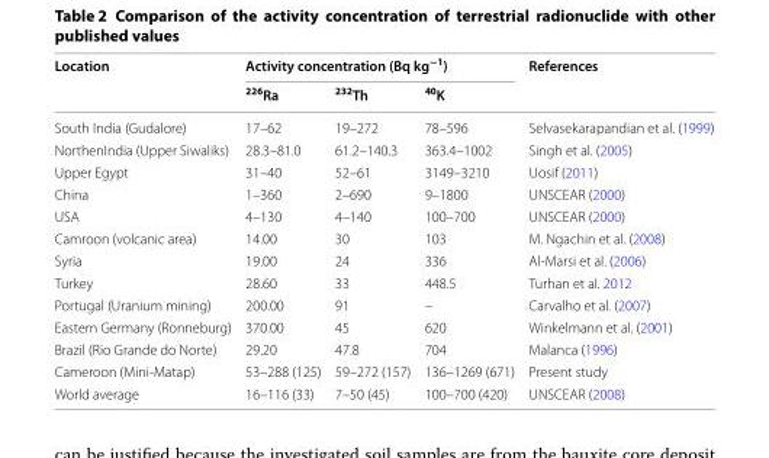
<table><thead><tr><td rowspan="2">Location</td><td colspan="3">Activity concentration (Bq kg<sup>−1</sup>)</td><td rowspan="2">References</td></tr><tr><td><sup>226</sup>Ra</td><td><sup>232</sup>Th</td><td><sup>40</sup>K</td></tr></thead><tbody><tr><td>South India (Gudalore)</td><td>17–62</td><td>19–272</td><td>78–596</td><td>Selvasekarapandian et al. (1999)</td></tr><tr><td>NorthenIndia (Upper Siwaliks)</td><td>28.3–81.0</td><td>61.2–140.3</td><td>363.4–1002</td><td>Singh et al. (2005)</td></tr><tr><td>Upper Egypt</td><td>31–40</td><td>52–61</td><td>3149–3210</td><td>Uosif (2011)</td></tr><tr><td>China</td><td>1–360</td><td>2–690</td><td>9–1800</td><td>UNSCEAR (2000)</td></tr><tr><td>USA</td><td>4–130</td><td>4–140</td><td>100–700</td><td>UNSCEAR (2000)</td></tr><tr><td>Camroon (volcanic area)</td><td>14.00</td><td>30</td><td>103</td><td>M. Ngachin et al. (2008)</td></tr><tr><td>Syria</td><td>19.00</td><td>24</td><td>336</td><td>Al-Marsi et al. (2006)</td></tr><tr><td>Turkey</td><td>28.60</td><td>33</td><td>448.5</td><td>Turhan et al. 2012</td></tr><tr><td>Portugal (Uranium mining)</td><td>200.00</td><td>91</td><td>–</td><td>Carvalho et al. (2007)</td></tr><tr><td>Eastern Germany (Ronneburg)</td><td>370.00</td><td>45</td><td>620</td><td>Winkelmann et al. (2001)</td></tr><tr><td>Brazil (Rio Grande do Norte)</td><td>29.20</td><td>47.8</td><td>704</td><td>Malanca (1996)</td></tr><tr><td>Cameroon (Mini-Matap)</td><td>53–288 (125)</td><td>59–272 (157)</td><td>136–1269 (671)</td><td>Present study</td></tr><tr><td>World average</td><td>16–116 (33)</td><td>7–50 (45)</td><td>100–700 (420)</td><td>UNSCEAR (2008)</td></tr></tbody></table>